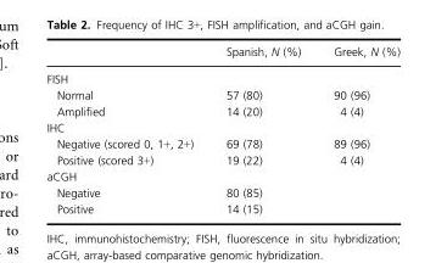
<table><thead><tr><td></td><td>Spanish, N (%)</td><td>Greek, N (%)</td></tr></thead><tbody><tr><td colspan="3">FISH</td></tr><tr><td>Normal</td><td>57 (80)</td><td>90 (96)</td></tr><tr><td>Amplified</td><td>14 (20)</td><td>4 (4)</td></tr><tr><td colspan="3">IHC</td></tr><tr><td>Negative (scored 0, 1+, 2+)</td><td>69 (78)</td><td>89 (96)</td></tr><tr><td>Positive (scored 3+)</td><td>19 (22)</td><td>4 (4)</td></tr><tr><td colspan="3">aCGH</td></tr><tr><td>Negative</td><td>80 (85)</td><td></td></tr><tr><td>Positive</td><td>14 (15)</td><td></td></tr></tbody></table>